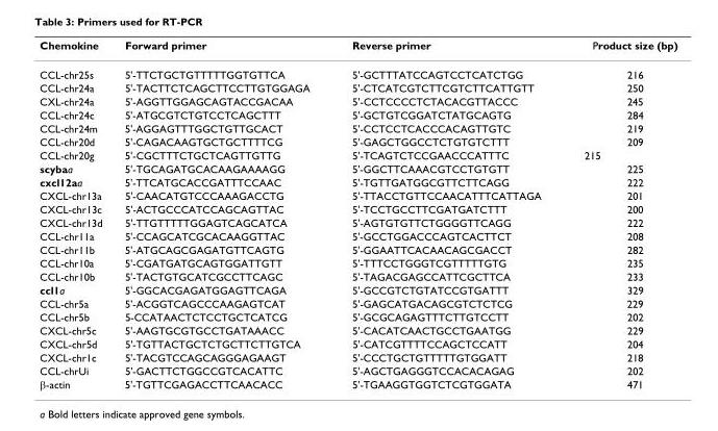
<table><thead><tr><td>Chemokine</td><td>Forward primer</td><td>Reverse primer</td><td>Product size (bp)</td></tr></thead><tbody><tr><td>CCL-chr25s</td><td>5&#x27;-TTCTGCTGTTTTTGGTGTTCA</td><td>5&#x27;-GCTTTATCCAGTCCTCATCTGG</td><td>216</td></tr><tr><td>CCL-chr24a</td><td>5&#x27;-TACTTCTCAGCTTCCTTGTGGAGA</td><td>5&#x27;-CTCATCGTCTTCGTCTTCATTGTT</td><td>250</td></tr><tr><td>CXL-chr24a</td><td>5&#x27;-AGGTTGGAGCAGTACCGACAA</td><td>5&#x27;-CCTCCCCTCTACACGTTACCC</td><td>245</td></tr><tr><td>CCL-chr24c</td><td>5&#x27;-ATGCGTCTGTCCTCAGCTTT</td><td>5&#x27;-GCTGTCGGATCTATGCAGTG</td><td>284</td></tr><tr><td>CCL-chr24m</td><td>5&#x27;-AGGAGTTTGGCTGTTGCACT</td><td>5&#x27;-CCTCCTCACCCACAGTTGTC</td><td>219</td></tr><tr><td>CCL-chr20d</td><td>5&#x27;-CAGACAAGTGCTGCTTTTCG</td><td>5&#x27;-GAGCTGGCCTCTGTGTCTTT</td><td>209</td></tr><tr><td>CCL-chr20g</td><td>5&#x27;-CGCTTTCTGCTCAGTTGTTG</td><td>5&#x27;-TCAGTCTCCGAACCCATTTC</td><td>215</td></tr><tr><td>scybaa</td><td>5&#x27;-TGCAGATGCACAAGAAAAGG</td><td>5&#x27;-GGCTTCAAACGTCCTGTGTT</td><td>225</td></tr><tr><td>cxcl12aa</td><td>5&#x27;-TTCATGCACCGATTTCCAAC</td><td>5&#x27;-TGTTGATGGCGTTCTTCAGG</td><td>222</td></tr><tr><td>CXCL-chr13a</td><td>5&#x27;-CAACATGTCCCAAAGACCTG</td><td>5&#x27;-TTACCTGTTCCAACATTTCATTAGA</td><td>201</td></tr><tr><td>CXCL-chr13c</td><td>5&#x27;-ACTGCCCATCCAGCAGTTAC</td><td>5&#x27;-TCCTGCCTTCGATGATCTTT</td><td>200</td></tr><tr><td>CXCL-chr13d</td><td>5&#x27;-TTGTTTTTGGAGTCAGCATCA</td><td>5&#x27;-AGTGTGTTCTGGGGTTCAGG</td><td>222</td></tr><tr><td>CCL-chr11a</td><td>5&#x27;-CCAGCATCGCACAAGGTTAC</td><td>5&#x27;-GCCTGGACCCAGTCACTTCT</td><td>208</td></tr><tr><td>CCL-chr11b</td><td>5&#x27;-ATGCAGCGAGATGTTCAGTG</td><td>5&#x27;-GGAATTCACAACAGCGACCT</td><td>282</td></tr><tr><td>CCL-chr10a</td><td>5&#x27;-CGATGATGCAGTGGATTGTT</td><td>5&#x27;-TTTCCTGGGTCGTTTTTGTG</td><td>235</td></tr><tr><td>CCL-chr10b</td><td>5&#x27;-TACTGTGCATCGCCTTCAGC</td><td>5&#x27;-TAGACGAGCCATTCGCTTCA</td><td>233</td></tr><tr><td>ccl1a</td><td>5&#x27;-GGCACGAGATGGAGTTCAGA</td><td>5&#x27;-GCCGTCTGTATCCGTGATTT</td><td>329</td></tr><tr><td>CCL-chr5a</td><td>5&#x27;-ACGGTCAGCCCAAGAGTCAT</td><td>5&#x27;-GAGCATGACAGCGTCTCTCG</td><td>229</td></tr><tr><td>CCL-chr5b</td><td>5-CCATAACTCTCCTGCTCATCG</td><td>5&#x27;-GCGCAGAGTTTCTTGTCCTT</td><td>202</td></tr><tr><td>CXCL-chr5c</td><td>5&#x27;-AAGTGCGTGCCTGATAAACC</td><td>5&#x27;-CACATCAACTGCCTGAATGG</td><td>229</td></tr><tr><td>CXCL-chr5d</td><td>5&#x27;-TGTTACTGCTCTGCTTCTTGTCA</td><td>5&#x27;-CATCGTTTTCCAGCTCCATT</td><td>204</td></tr><tr><td>CXCL-chr1c</td><td>5&#x27;-TACGTCCAGCAGGGAGAAGT</td><td>5&#x27;-CCCTGCTGTTTTTGTGGATT</td><td>218</td></tr><tr><td>CCL-chrUi</td><td>5&#x27;-GACTTCTGGCCGTCACATTC</td><td>5&#x27;-AGCTGAGGGTCCACACAGAG</td><td>202</td></tr><tr><td>β-actin</td><td>5&#x27;-TGTTCGAGACCTTCAACACC</td><td>5&#x27;-TGAAGGTGGTCTCGTGGATA</td><td>471</td></tr></tbody></table>